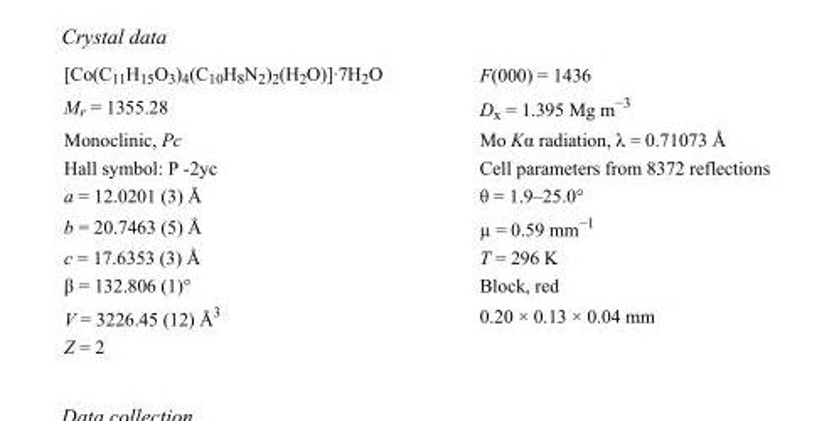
<table><tbody><tr><td>[Co(C<sub>11</sub>H<sub>15</sub>O<sub>3</sub>)<sub>4</sub>(C<sub>10</sub>H<sub>8</sub>N<sub>2</sub>)<sub>2</sub>(H<sub>2</sub>O)]·7H<sub>2</sub>O</td><td>F(000) = 1436</td></tr><tr><td>M<sub>r</sub> = 1355.28</td><td>D<sub>x</sub> = 1.395 Mg m<sup>−3</sup></td></tr><tr><td>Monoclinic, Pc</td><td>Mo Kα radiation, λ = 0.71073 Å</td></tr><tr><td>Hall symbol: P -2yc</td><td>Cell parameters from 8372 reflections</td></tr><tr><td>a = 12.0201 (3) Å</td><td>θ = 1.9–25.0°</td></tr><tr><td>b = 20.7463 (5) Å</td><td>µ = 0.59 mm<sup>−1</sup></td></tr><tr><td>c = 17.6353 (3) Å</td><td>T = 296 K</td></tr><tr><td>β = 132.806 (1)°</td><td>Block, red</td></tr><tr><td>V = 3226.45 (12) Å<sup>3</sup></td><td>0.20 × 0.13 × 0.04 mm</td></tr><tr><td>Z = 2</td><td></td></tr></tbody></table>